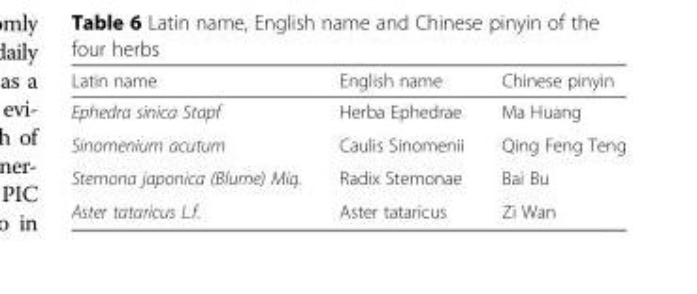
<table><thead><tr><td>Latin name</td><td>English name</td><td>Chinese pinyin</td></tr></thead><tbody><tr><td>Ephedra sinica Stapf</td><td>Herba Ephedrae</td><td>Ma Huang</td></tr><tr><td>Sinomenium acutum</td><td>Caulis Sinomenii</td><td>Qing Feng Teng</td></tr><tr><td>Stemona japonica (Blume) Miq.</td><td>Radix Stemonae</td><td>Bai Bu</td></tr><tr><td>Aster tataricus L.f.</td><td>Aster tataricus</td><td>Zi Wan</td></tr></tbody></table>